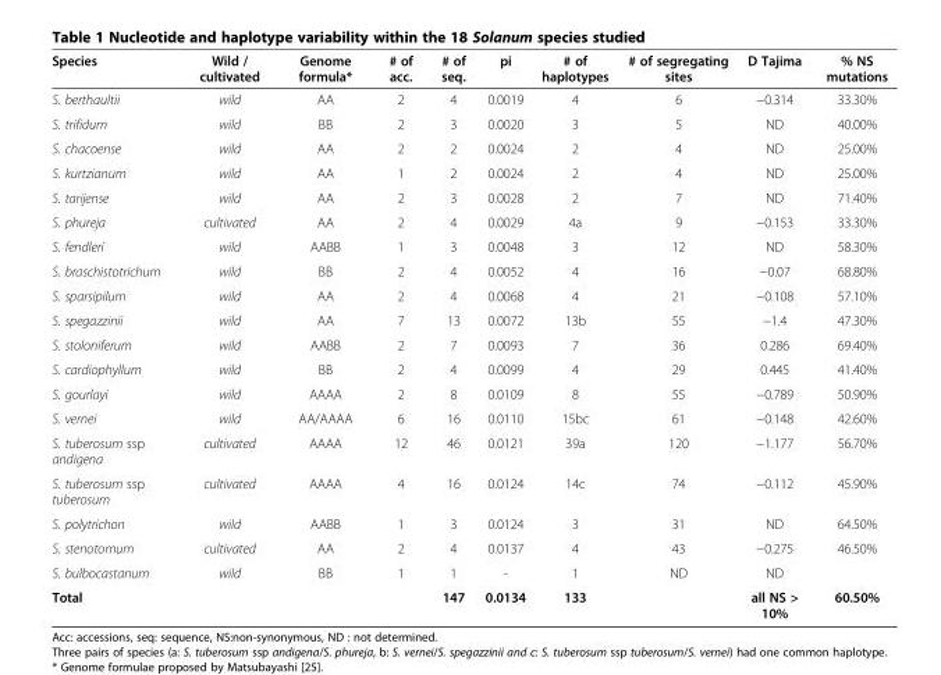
<table><thead><tr><td>Species</td><td>Wild / cultivated</td><td>Genome formula*</td><td># of acc.</td><td># of seq.</td><td>pi</td><td># of haplotypes</td><td># of segregating sites</td><td>D Tajima</td><td>% NS mutations</td></tr></thead><tbody><tr><td>S. berthaultii</td><td>wild</td><td>AA</td><td>2</td><td>4</td><td>0.0019</td><td>4</td><td>6</td><td>−0.314</td><td>33.30%</td></tr><tr><td>S. trifidum</td><td>wild</td><td>BB</td><td>2</td><td>3</td><td>0.0020</td><td>3</td><td>5</td><td>ND</td><td>40.00%</td></tr><tr><td>S. chacoense</td><td>wild</td><td>AA</td><td>2</td><td>2</td><td>0.0024</td><td>2</td><td>4</td><td>ND</td><td>25.00%</td></tr><tr><td>S. kurtzianum</td><td>wild</td><td>AA</td><td>1</td><td>2</td><td>0.0024</td><td>2</td><td>4</td><td>ND</td><td>25.00%</td></tr><tr><td>S. tarijense</td><td>wild</td><td>AA</td><td>2</td><td>3</td><td>0.0028</td><td>2</td><td>7</td><td>ND</td><td>71.40%</td></tr><tr><td>S. phureja</td><td>cultivated</td><td>AA</td><td>2</td><td>4</td><td>0.0029</td><td>4a</td><td>9</td><td>−0.153</td><td>33.30%</td></tr><tr><td>S. fendleri</td><td>wild</td><td>AABB</td><td>1</td><td>3</td><td>0.0048</td><td>3</td><td>12</td><td>ND</td><td>58.30%</td></tr><tr><td>S. braschistotrichum</td><td>wild</td><td>BB</td><td>2</td><td>4</td><td>0.0052</td><td>4</td><td>16</td><td>−0.07</td><td>68.80%</td></tr><tr><td>S. sparsipilum</td><td>wild</td><td>AA</td><td>2</td><td>4</td><td>0.0068</td><td>4</td><td>21</td><td>−0.108</td><td>57.10%</td></tr><tr><td>S. spegazzinii</td><td>wild</td><td>AA</td><td>7</td><td>13</td><td>0.0072</td><td>13b</td><td>55</td><td>−1.4</td><td>47.30%</td></tr><tr><td>S. stoloniferum</td><td>wild</td><td>AABB</td><td>2</td><td>7</td><td>0.0093</td><td>7</td><td>36</td><td>0.286</td><td>69.40%</td></tr><tr><td>S. cardiophyllum</td><td>wild</td><td>BB</td><td>2</td><td>4</td><td>0.0099</td><td>4</td><td>29</td><td>0.445</td><td>41.40%</td></tr><tr><td>S. gourlayi</td><td>wild</td><td>AAAA</td><td>2</td><td>8</td><td>0.0109</td><td>8</td><td>55</td><td>−0.789</td><td>50.90%</td></tr><tr><td>S. vernei</td><td>wild</td><td>AA/AAAA</td><td>6</td><td>16</td><td>0.0110</td><td>15bc</td><td>61</td><td>−0.148</td><td>42.60%</td></tr><tr><td>S. tuberosum ssp andigena</td><td>cultivated</td><td>AAAA</td><td>12</td><td>46</td><td>0.0121</td><td>39a</td><td>120</td><td>−1.177</td><td>56.70%</td></tr><tr><td>S. tuberosum ssp tuberosum</td><td>cultivated</td><td>AAAA</td><td>4</td><td>16</td><td>0.0124</td><td>14c</td><td>74</td><td>−0.112</td><td>45.90%</td></tr><tr><td>S. polytrichon</td><td>wild</td><td>AABB</td><td>1</td><td>3</td><td>0.0124</td><td>3</td><td>31</td><td>ND</td><td>64.50%</td></tr><tr><td>S. stenotomum</td><td>cultivated</td><td>AA</td><td>2</td><td>4</td><td>0.0137</td><td>4</td><td>43</td><td>−0.275</td><td>46.50%</td></tr><tr><td>S. bulbocastanum</td><td>wild</td><td>BB</td><td>1</td><td>1</td><td>-</td><td>1</td><td>ND</td><td>ND</td><td></td></tr><tr><td>Total</td><td></td><td></td><td></td><td>147</td><td>0.0134</td><td>133</td><td></td><td>all NS &gt; 10%</td><td>60.50%</td></tr></tbody></table>